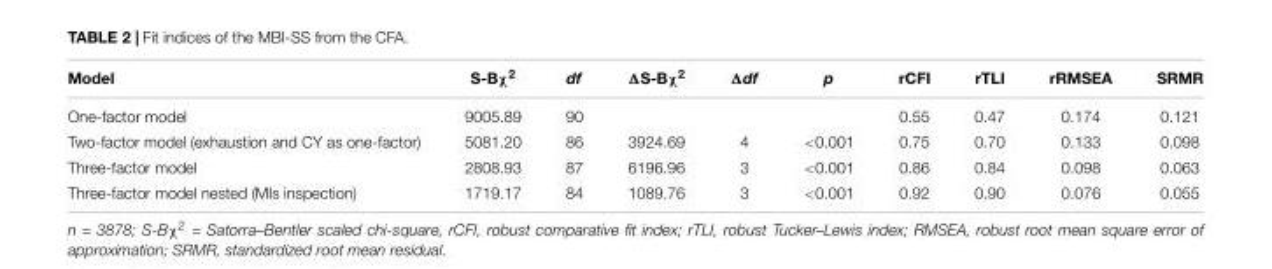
<table><thead><tr><td>Model</td><td>S-Bχ<sup>2</sup></td><td>df</td><td>ΔS-Bχ<sup>2</sup></td><td>Δdf</td><td>p</td><td>rCFI</td><td>rTLI</td><td>rRMSEA</td><td>SRMR</td></tr></thead><tbody><tr><td>One-factor model</td><td>9005.89</td><td>90</td><td></td><td></td><td></td><td>0.55</td><td>0.47</td><td>0.174</td><td>0.121</td></tr><tr><td>Two-factor model (exhaustion and CY as one-factor)</td><td>5081.20</td><td>86</td><td>3924.69</td><td>4</td><td>&lt;0.001</td><td>0.75</td><td>0.70</td><td>0.133</td><td>0.098</td></tr><tr><td>Three-factor model</td><td>2808.93</td><td>87</td><td>6196.96</td><td>3</td><td>&lt;0.001</td><td>0.86</td><td>0.84</td><td>0.098</td><td>0.063</td></tr><tr><td>Three-factor model nested (MIs inspection)</td><td>1719.17</td><td>84</td><td>1089.76</td><td>3</td><td>&lt;0.001</td><td>0.92</td><td>0.90</td><td>0.076</td><td>0.055</td></tr></tbody></table>